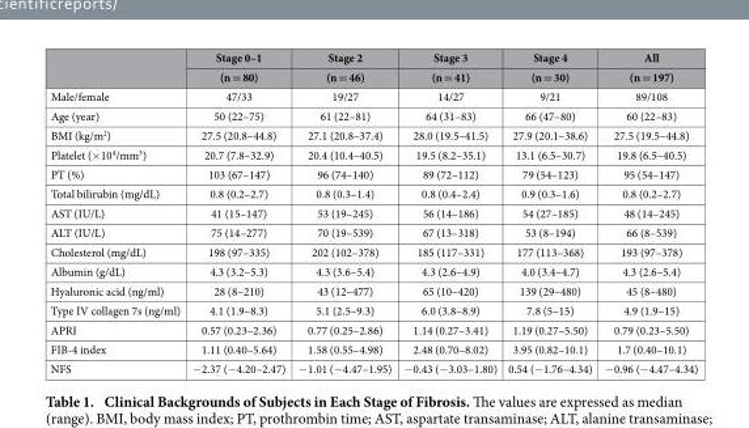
<table><thead><tr><td rowspan="2"></td><td rowspan="2">Stage 0–1 (n = 80)</td><td rowspan="2">Stage 2 (n = 46)</td><td rowspan="2">Stage 3 (n = 41)</td><td rowspan="2">Stage 4 (n = 30)</td><td rowspan="2">All (n = 197)</td></tr><tr></tr></thead><tbody><tr><td>Male/female</td><td>47/33</td><td>19/27</td><td>14/27</td><td>9/21</td><td>89/108</td></tr><tr><td>Age (year)</td><td>50 (22–75)</td><td>61 (22–81)</td><td>64 (31–83)</td><td>66 (47–80)</td><td>60 (22–83)</td></tr><tr><td>BMI (kg/m<sup>2</sup>)</td><td>27.5 (20.8–44.8)</td><td>27.1 (20.8–37.4)</td><td>28.0 (19.5–41.5)</td><td>27.9 (20.1–38.6)</td><td>27.5 (19.5–44.8)</td></tr><tr><td>Platelet (× 10<sup>4</sup>/mm<sup>3</sup>)</td><td>20.7 (7.8–32.9)</td><td>20.4 (10.4–40.5)</td><td>19.5 (8.2–35.1)</td><td>13.1 (6.5–30.7)</td><td>19.8 (6.5–40.5)</td></tr><tr><td>PT (%)</td><td>103 (67–147)</td><td>96 (74–140)</td><td>89 (72–112)</td><td>79 (54–123)</td><td>95 (54–147)</td></tr><tr><td>Total bilirubin (mg/dL)</td><td>0.8 (0.2–2.7)</td><td>0.8 (0.3–1.4)</td><td>0.8 (0.4–2.4)</td><td>0.9 (0.3–1.6)</td><td>0.8 (0.2–2.7)</td></tr><tr><td>AST (IU/L)</td><td>41 (15–147)</td><td>53 (19–245)</td><td>56 (14–186)</td><td>54 (27–185)</td><td>48 (14–245)</td></tr><tr><td>ALT (IU/L)</td><td>75 (14–277)</td><td>70 (19–539)</td><td>67 (13–318)</td><td>53 (8–194)</td><td>66 (8–539)</td></tr><tr><td>Cholesterol (mg/dL)</td><td>198 (97–335)</td><td>202 (102–378)</td><td>185 (117–331)</td><td>177 (113–368)</td><td>193 (97–378)</td></tr><tr><td>Albumin (g/dL)</td><td>4.3 (3.2–5.3)</td><td>4.3 (3.6–5.4)</td><td>4.3 (2.6–4.9)</td><td>4.0 (3.4–4.7)</td><td>4.3 (2.6–5.4)</td></tr><tr><td>Hyaluronic acid (ng/ml)</td><td>28 (8–210)</td><td>43 (12–477)</td><td>65 (10–420)</td><td>139 (29–480)</td><td>45 (8–480)</td></tr><tr><td>Type IV collagen 7s (ng/ml)</td><td>4.1 (1.9–8.3)</td><td>5.1 (2.5–9.3)</td><td>6.0 (3.8–8.9)</td><td>7.8 (5–15)</td><td>4.9 (1.9–15)</td></tr><tr><td>APRI</td><td>0.57 (0.23–2.36)</td><td>0.77 (0.25–2.86)</td><td>1.14 (0.27–3.41)</td><td>1.19 (0.27–5.50)</td><td>0.79 (0.23–5.50)</td></tr><tr><td>FIB-4 index</td><td>1.11 (0.40–5.64)</td><td>1.58 (0.55–4.98)</td><td>2.48 (0.70–8.02)</td><td>3.95 (0.82–10.1)</td><td>1.7 (0.40–10.1)</td></tr><tr><td>NFS</td><td>− 2.37 (− 4.20–2.47)</td><td>− 1.01 (− 4.47–1.95)</td><td>− 0.43 (− 3.03–1.80)</td><td>0.54 (− 1.76–4.34)</td><td>− 0.96 (− 4.47–4.34)</td></tr></tbody></table>